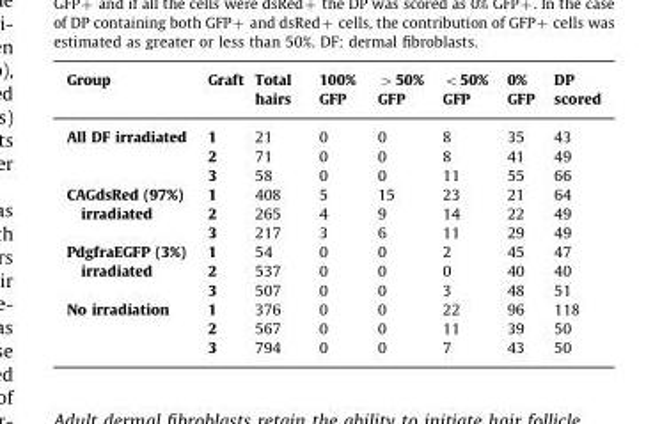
<table><thead><tr><td>Group</td><td>Graft</td><td>Total hairs</td><td>100% GFP</td><td>&gt;50% GFP</td><td>&lt;50% GFP</td><td>0% GFP</td><td>DP scored</td></tr></thead><tbody><tr><td rowspan="3">All DF irradiated</td><td>1</td><td>21</td><td>0</td><td>0</td><td>8</td><td>35</td><td>43</td></tr><tr><td>2</td><td>71</td><td>0</td><td>0</td><td>8</td><td>41</td><td>49</td></tr><tr><td>3</td><td>58</td><td>0</td><td>0</td><td>11</td><td>55</td><td>66</td></tr><tr><td rowspan="3">CAGdsRed (97%) irradiated</td><td>1</td><td>408</td><td>5</td><td>15</td><td>23</td><td>21</td><td>64</td></tr><tr><td>2</td><td>265</td><td>4</td><td>9</td><td>14</td><td>22</td><td>49</td></tr><tr><td>3</td><td>217</td><td>3</td><td>6</td><td>11</td><td>29</td><td>49</td></tr><tr><td rowspan="3">PdgfraEGFP (3%) irradiated</td><td>1</td><td>54</td><td>0</td><td>0</td><td>2</td><td>45</td><td>47</td></tr><tr><td>2</td><td>537</td><td>0</td><td>0</td><td>0</td><td>40</td><td>40</td></tr><tr><td>3</td><td>507</td><td>0</td><td>0</td><td>3</td><td>48</td><td>51</td></tr><tr><td rowspan="3">No irradiation</td><td>1</td><td>376</td><td>0</td><td>0</td><td>22</td><td>96</td><td>118</td></tr><tr><td>2</td><td>567</td><td>0</td><td>0</td><td>11</td><td>39</td><td>50</td></tr><tr><td>3</td><td>794</td><td>0</td><td>0</td><td>7</td><td>43</td><td>50</td></tr></tbody></table>